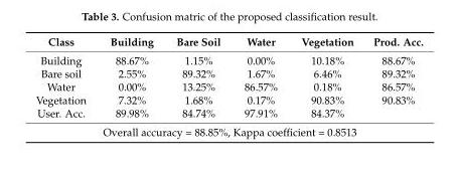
<table><thead><tr><td>Class</td><td>Building</td><td>Bare Soil</td><td>Water</td><td>Vegetation</td><td>Prod. Acc.</td></tr></thead><tbody><tr><td>Building</td><td>88.67%</td><td>1.15%</td><td>0.00%</td><td>10.18%</td><td>88.67%</td></tr><tr><td>Bare soil</td><td>2.55%</td><td>89.32%</td><td>1.67%</td><td>6.46%</td><td>89.32%</td></tr><tr><td>Water</td><td>0.00%</td><td>13.25%</td><td>86.57%</td><td>0.18%</td><td>86.57%</td></tr><tr><td>Vegetation</td><td>7.32%</td><td>1.68%</td><td>0.17%</td><td>90.83%</td><td>90.83%</td></tr><tr><td>User. Acc.</td><td>89.98%</td><td>84.74%</td><td>97.91%</td><td>84.37%</td><td></td></tr><tr><td colspan="6">Overall accuracy = 88.85%, Kappa coefficient = 0.8513</td></tr></tbody></table>